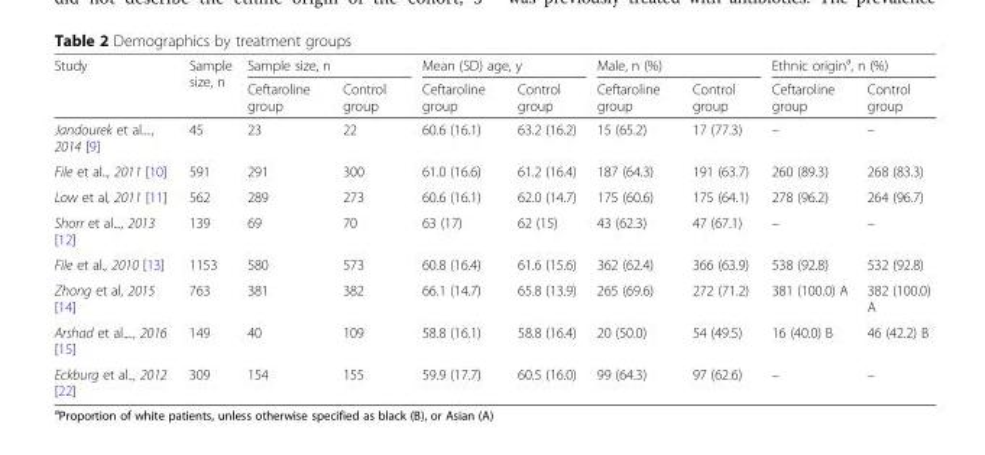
<table><thead><tr><td rowspan="2">Study</td><td rowspan="2">Sample size, n</td><td colspan="2">Sample size, n</td><td colspan="2">Mean (SD) age, y</td><td colspan="2">Male, n (%)</td><td colspan="2">Ethnic origin<sup>a</sup>, n (%)</td></tr><tr><td>Ceftaroline group</td><td>Control group</td><td>Ceftaroline group</td><td>Control group</td><td>Ceftaroline group</td><td>Control group</td><td>Ceftaroline group</td><td>Control group</td></tr></thead><tbody><tr><td>Jandourek et al...., 2014 [9]</td><td>45</td><td>23</td><td>22</td><td>60.6 (16.1)</td><td>63.2 (16.2)</td><td>15 (65.2)</td><td>17 (77.3)</td><td>–</td><td>–</td></tr><tr><td>File et al.., 2011 [10]</td><td>591</td><td>291</td><td>300</td><td>61.0 (16.6)</td><td>61.2 (16.4)</td><td>187 (64.3)</td><td>191 (63.7)</td><td>260 (89.3)</td><td>268 (83.3)</td></tr><tr><td>Low et al, 2011 [11]</td><td>562</td><td>289</td><td>273</td><td>60.6 (16.1)</td><td>62.0 (14.7)</td><td>175 (60.6)</td><td>175 (64.1)</td><td>278 (96.2)</td><td>264 (96.7)</td></tr><tr><td>Shorr et al..., 2013 [12]</td><td>139</td><td>69</td><td>70</td><td>63 (17)</td><td>62 (15)</td><td>43 (62.3)</td><td>47 (67.1)</td><td>–</td><td>–</td></tr><tr><td>File et al., 2010 [13]</td><td>1153</td><td>580</td><td>573</td><td>60.8 (16.4)</td><td>61.6 (15.6)</td><td>362 (62.4)</td><td>366 (63.9)</td><td>538 (92.8)</td><td>532 (92.8)</td></tr><tr><td>Zhong et al, 2015 [14]</td><td>763</td><td>381</td><td>382</td><td>66.1 (14.7)</td><td>65.8 (13.9)</td><td>265 (69.6)</td><td>272 (71.2)</td><td>381 (100.0) A</td><td>382 (100.0) A</td></tr><tr><td>Arshad et al...., 2016 [15]</td><td>149</td><td>40</td><td>109</td><td>58.8 (16.1)</td><td>58.8 (16.4)</td><td>20 (50.0)</td><td>54 (49.5)</td><td>16 (40.0) B</td><td>46 (42.2) B</td></tr><tr><td>Eckburg et al.., 2012 [22]</td><td>309</td><td>154</td><td>155</td><td>59.9 (17.7)</td><td>60.5 (16.0)</td><td>99 (64.3)</td><td>97 (62.6)</td><td>–</td><td>–</td></tr></tbody></table>